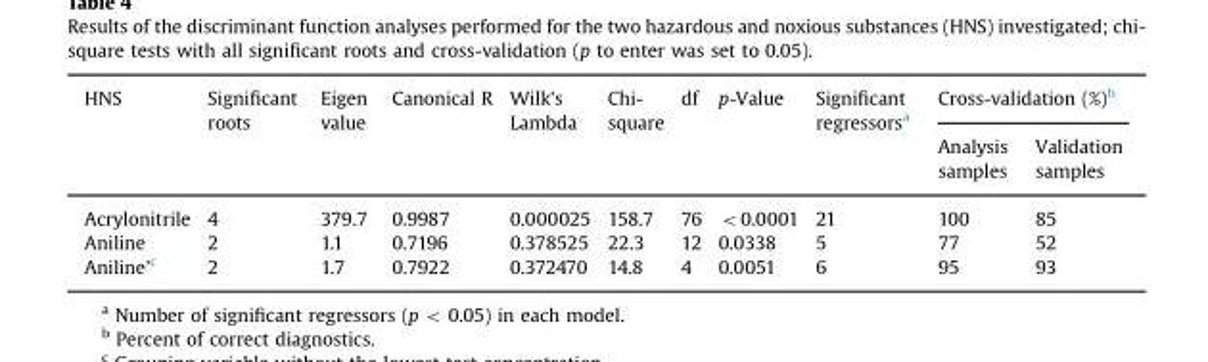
<table><thead><tr><td rowspan="2">HNS</td><td rowspan="2">Significant roots</td><td rowspan="2">Eigen value</td><td rowspan="2">Canonical R</td><td rowspan="2">Wilk&#x27;s Lambda</td><td rowspan="2">Chi- square</td><td rowspan="2">df</td><td rowspan="2">p-Value</td><td rowspan="2">Significant regressors<sup>a</sup></td><td colspan="2">Cross-validation (%)<sup>b</sup></td></tr><tr><td>Analysis samples</td><td>Validation samples</td></tr></thead><tbody><tr><td>Acrylonitrile</td><td>4</td><td>379.7</td><td>0.9987</td><td>0.000025</td><td>158.7</td><td>76</td><td>&lt;0.0001</td><td>21</td><td>100</td><td>85</td></tr><tr><td>Aniline</td><td>2</td><td>1.1</td><td>0.7196</td><td>0.378525</td><td>22.3</td><td>12</td><td>0.0338</td><td>5</td><td>77</td><td>52</td></tr><tr><td>Aniline’<sup>c</sup></td><td>2</td><td>1.7</td><td>0.7922</td><td>0.372470</td><td>14.8</td><td>4</td><td>0.0051</td><td>6</td><td>95</td><td>93</td></tr></tbody></table>